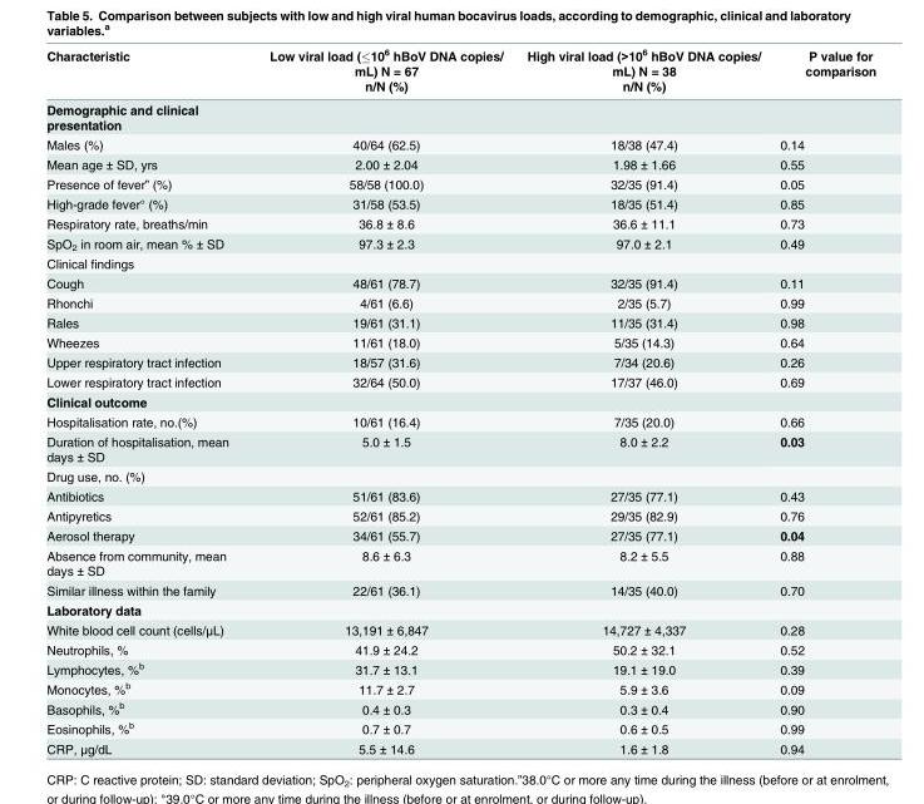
<table><thead><tr><td rowspan="2">Characteristic</td><td rowspan="2">Low viral load (≤10<sup>6</sup> hBoV DNA copies/ mL) N = 67 n/N (%)</td><td rowspan="2">High viral load (&gt;10<sup>6</sup> hBoV DNA copies/ mL) N = 38 n/N (%)</td><td rowspan="2">P value for comparison</td></tr><tr></tr></thead><tbody><tr><td colspan="4">Demographic and clinical presentation</td></tr><tr><td>Males (%)</td><td>40/64 (62.5)</td><td>18/38 (47.4)</td><td>0.14</td></tr><tr><td>Mean age ± SD, yrs</td><td>2.00 ± 2.04</td><td>1.98 ± 1.66</td><td>0.55</td></tr><tr><td>Presence of fever” (%)</td><td>58/58 (100.0)</td><td>32/35 (91.4)</td><td>0.05</td></tr><tr><td>High-grade fever° (%)</td><td>31/58 (53.5)</td><td>18/35 (51.4)</td><td>0.85</td></tr><tr><td>Respiratory rate, breaths/min</td><td>36.8 ± 8.6</td><td>36.6 ± 11.1</td><td>0.73</td></tr><tr><td>SpO<sub>2</sub> in room air, mean % ± SD</td><td>97.3 ± 2.3</td><td>97.0 ± 2.1</td><td>0.49</td></tr><tr><td colspan="4">Clinical findings</td></tr><tr><td>Cough</td><td>48/61 (78.7)</td><td>32/35 (91.4)</td><td>0.11</td></tr><tr><td>Rhonchi</td><td>4/61 (6.6)</td><td>2/35 (5.7)</td><td>0.99</td></tr><tr><td>Rales</td><td>19/61 (31.1)</td><td>11/35 (31.4)</td><td>0.98</td></tr><tr><td>Wheezes</td><td>11/61 (18.0)</td><td>5/35 (14.3)</td><td>0.64</td></tr><tr><td>Upper respiratory tract infection</td><td>18/57 (31.6)</td><td>7/34 (20.6)</td><td>0.26</td></tr><tr><td>Lower respiratory tract infection</td><td>32/64 (50.0)</td><td>17/37 (46.0)</td><td>0.69</td></tr><tr><td colspan="4">Clinical outcome</td></tr><tr><td>Hospitalisation rate, no.(%)</td><td>10/61 (16.4)</td><td>7/35 (20.0)</td><td>0.66</td></tr><tr><td>Duration of hospitalisation, mean days ± SD</td><td>5.0 ± 1.5</td><td>8.0 ± 2.2</td><td>0.03</td></tr><tr><td colspan="4">Drug use, no. (%)</td></tr><tr><td>Antibiotics</td><td>51/61 (83.6)</td><td>27/35 (77.1)</td><td>0.43</td></tr><tr><td>Antipyretics</td><td>52/61 (85.2)</td><td>29/35 (82.9)</td><td>0.76</td></tr><tr><td>Aerosol therapy</td><td>34/61 (55.7)</td><td>27/35 (77.1)</td><td>0.04</td></tr><tr><td>Absence from community, mean days ± SD</td><td>8.6 ± 6.3</td><td>8.2 ± 5.5</td><td>0.88</td></tr><tr><td>Similar illness within the family</td><td>22/61 (36.1)</td><td>14/35 (40.0)</td><td>0.70</td></tr><tr><td colspan="4">Laboratory data</td></tr><tr><td>White blood cell count (cells/μL)</td><td>13,191 ± 6,847</td><td>14,727 ± 4,337</td><td>0.28</td></tr><tr><td>Neutrophils, %</td><td>41.9 ± 24.2</td><td>50.2 ± 32.1</td><td>0.52</td></tr><tr><td>Lymphocytes, %<sup>b</sup></td><td>31.7 ± 13.1</td><td>19.1 ± 19.0</td><td>0.39</td></tr><tr><td>Monocytes, %<sup>b</sup></td><td>11.7 ± 2.7</td><td>5.9 ± 3.6</td><td>0.09</td></tr><tr><td>Basophils, %<sup>b</sup></td><td>0.4 ± 0.3</td><td>0.3 ± 0.4</td><td>0.90</td></tr><tr><td>Eosinophils, %<sup>b</sup></td><td>0.7 ± 0.7</td><td>0.6 ± 0.5</td><td>0.99</td></tr><tr><td>CRP, μg/dL</td><td>5.5 ± 14.6</td><td>1.6 ± 1.8</td><td>0.94</td></tr></tbody></table>